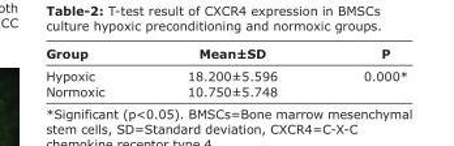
<table><thead><tr><td>Group</td><td>Mean±SD</td><td>P</td></tr></thead><tbody><tr><td>Hypoxic</td><td>18.200±5.596</td><td>0.000*</td></tr><tr><td>Normoxic</td><td>10.750±5.748</td><td></td></tr></tbody></table>